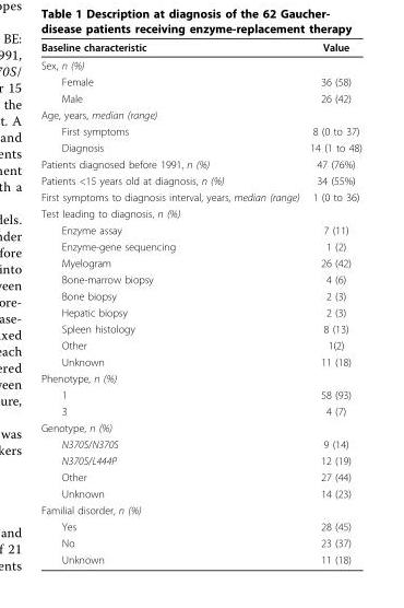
<table><thead><tr><td>Baseline characteristic</td><td>Value</td></tr></thead><tbody><tr><td colspan="2">Sex, n (%)</td></tr><tr><td>Female</td><td>36 (58)</td></tr><tr><td>Male</td><td>26 (42)</td></tr><tr><td colspan="2">Age, years, median (range)</td></tr><tr><td>First symptoms</td><td>8 (0 to 37)</td></tr><tr><td>Diagnosis</td><td>14 (1 to 48)</td></tr><tr><td>Patients diagnosed before 1991, n (%)</td><td>47 (76%)</td></tr><tr><td>Patients &lt;15 years old at diagnosis, n (%)</td><td>34 (55%)</td></tr><tr><td>First symptoms to diagnosis interval, years, median (range)</td><td>1 (0 to 36)</td></tr><tr><td colspan="2">Test leading to diagnosis, n (%)</td></tr><tr><td>Enzyme assay</td><td>7 (11)</td></tr><tr><td>Enzyme-gene sequencing</td><td>1 (2)</td></tr><tr><td>Myelogram</td><td>26 (42)</td></tr><tr><td>Bone-marrow biopsy</td><td>4 (6)</td></tr><tr><td>Bone biopsy</td><td>2 (3)</td></tr><tr><td>Hepatic biopsy</td><td>2 (3)</td></tr><tr><td>Spleen histology</td><td>8 (13)</td></tr><tr><td>Other</td><td>1(2)</td></tr><tr><td>Unknown</td><td>11 (18)</td></tr><tr><td colspan="2">Phenotype, n (%)</td></tr><tr><td>1</td><td>58 (93)</td></tr><tr><td>3</td><td>4 (7)</td></tr><tr><td colspan="2">Genotype, n (%)</td></tr><tr><td>N370S/N370S</td><td>9 (14)</td></tr><tr><td>N370S/L444P</td><td>12 (19)</td></tr><tr><td>Other</td><td>27 (44)</td></tr><tr><td>Unknown</td><td>14 (23)</td></tr><tr><td colspan="2">Familial disorder, n (%)</td></tr><tr><td>Yes</td><td>28 (45)</td></tr><tr><td>No</td><td>23 (37)</td></tr><tr><td>Unknown</td><td>11 (18)</td></tr></tbody></table>